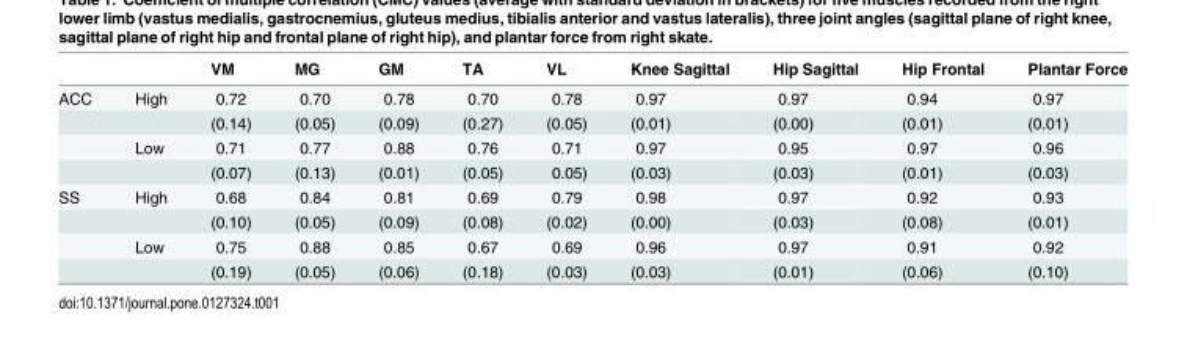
<table><thead><tr><td></td><td></td><td>VM</td><td>MG</td><td>GM</td><td>TA</td><td>VL</td><td>Knee Sagittal</td><td>Hip Sagittal</td><td>Hip Frontal</td><td>Plantar Force</td></tr></thead><tbody><tr><td rowspan="4">ACC</td><td>High</td><td>0.72</td><td>0.70</td><td>0.78</td><td>0.70</td><td>0.78</td><td>0.97</td><td>0.97</td><td>0.94</td><td>0.97</td></tr><tr><td></td><td>(0.14)</td><td>(0.05)</td><td>(0.09)</td><td>(0.27)</td><td>(0.05)</td><td>(0.01)</td><td>(0.00)</td><td>(0.01)</td><td>(0.01)</td></tr><tr><td>Low</td><td>0.71</td><td>0.77</td><td>0.88</td><td>0.76</td><td>0.71</td><td>0.97</td><td>0.95</td><td>0.97</td><td>0.96</td></tr><tr><td></td><td>(0.07)</td><td>(0.13)</td><td>(0.01)</td><td>(0.05)</td><td>0.05)</td><td>(0.03)</td><td>(0.03)</td><td>(0.01)</td><td>(0.03)</td></tr><tr><td rowspan="4">SS</td><td>High</td><td>0.68</td><td>0.84</td><td>0.81</td><td>0.69</td><td>0.79</td><td>0.98</td><td>0.97</td><td>0.92</td><td>0.93</td></tr><tr><td></td><td>(0.10)</td><td>(0.05)</td><td>(0.09)</td><td>(0.08)</td><td>(0.02)</td><td>(0.00)</td><td>(0.03)</td><td>(0.08)</td><td>(0.01)</td></tr><tr><td>Low</td><td>0.75</td><td>0.88</td><td>0.85</td><td>0.67</td><td>0.69</td><td>0.96</td><td>0.97</td><td>0.91</td><td>0.92</td></tr><tr><td></td><td>(0.19)</td><td>(0.05)</td><td>(0.06)</td><td>(0.18)</td><td>(0.03)</td><td>(0.03)</td><td>(0.01)</td><td>(0.06)</td><td>(0.10)</td></tr></tbody></table>